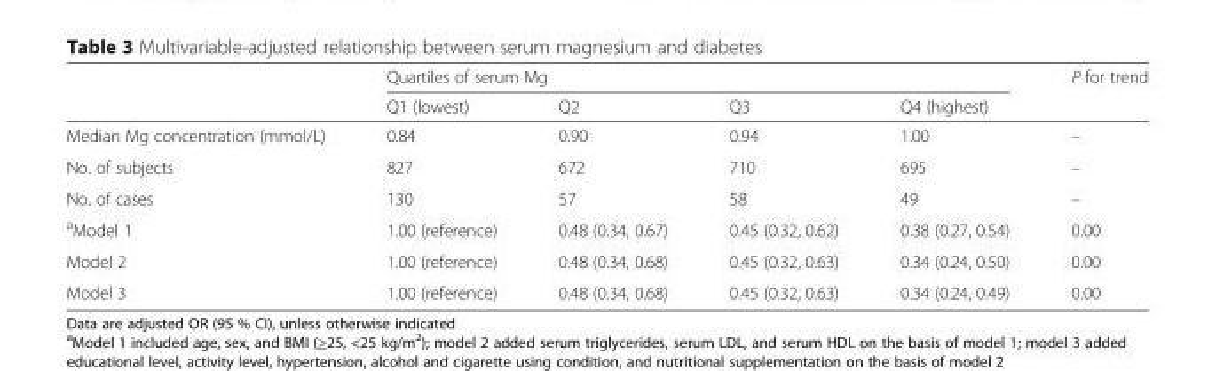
<table><thead><tr><td rowspan="2"></td><td colspan="4">Quartiles of serum Mg</td><td rowspan="2">P for trend</td></tr><tr><td>Q1 (lowest)</td><td>Q2</td><td>Q3</td><td>Q4 (highest)</td></tr></thead><tbody><tr><td>Median Mg concentration (mmol/L)</td><td>0.84</td><td>0.90</td><td>0.94</td><td>1.00</td><td>–</td></tr><tr><td>No. of subjects</td><td>827</td><td>672</td><td>710</td><td>695</td><td>–</td></tr><tr><td>No. of cases</td><td>130</td><td>57</td><td>58</td><td>49</td><td>–</td></tr><tr><td><sup>a</sup>Model 1</td><td>1.00 (reference)</td><td>0.48 (0.34, 0.67)</td><td>0.45 (0.32, 0.62)</td><td>0.38 (0.27, 0.54)</td><td>0.00</td></tr><tr><td>Model 2</td><td>1.00 (reference)</td><td>0.48 (0.34, 0.68)</td><td>0.45 (0.32, 0.63)</td><td>0.34 (0.24, 0.50)</td><td>0.00</td></tr><tr><td>Model 3</td><td>1.00 (reference)</td><td>0.48 (0.34, 0.68)</td><td>0.45 (0.32, 0.63)</td><td>0.34 (0.24, 0.49)</td><td>0.00</td></tr></tbody></table>